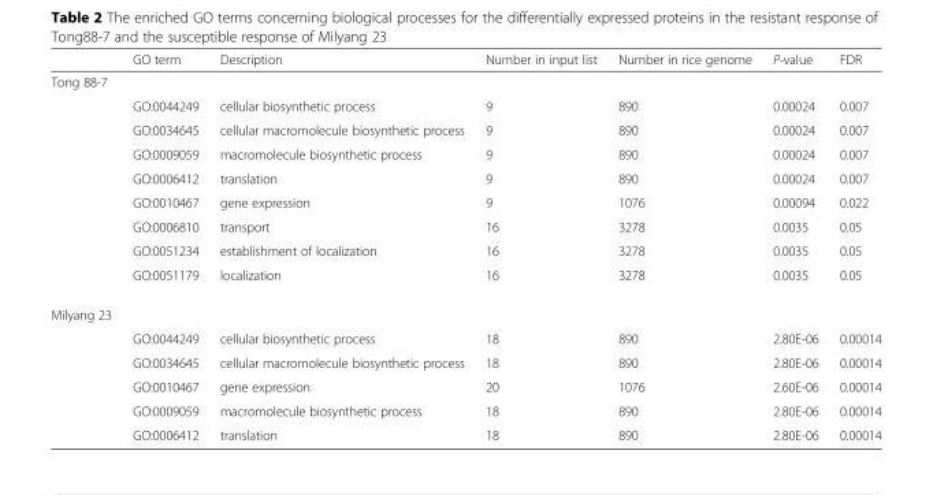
<table><thead><tr><td></td><td>GO term</td><td>Description</td><td>Number in input list</td><td>Number in rice genome</td><td>P-value</td><td>FDR</td></tr></thead><tbody><tr><td colspan="7">Tong 88-7</td></tr><tr><td></td><td>GO:0044249</td><td>cellular biosynthetic process</td><td>9</td><td>890</td><td>0.00024</td><td>0.007</td></tr><tr><td></td><td>GO:0034645</td><td>cellular macromolecule biosynthetic process</td><td>9</td><td>890</td><td>0.00024</td><td>0.007</td></tr><tr><td></td><td>GO:0009059</td><td>macromolecule biosynthetic process</td><td>9</td><td>890</td><td>0.00024</td><td>0.007</td></tr><tr><td></td><td>GO:0006412</td><td>translation</td><td>9</td><td>890</td><td>0.00024</td><td>0.007</td></tr><tr><td></td><td>GO:0010467</td><td>gene expression</td><td>9</td><td>1076</td><td>0.00094</td><td>0.022</td></tr><tr><td></td><td>GO:0006810</td><td>transport</td><td>16</td><td>3278</td><td>0.0035</td><td>0.05</td></tr><tr><td></td><td>GO:0051234</td><td>establishment of localization</td><td>16</td><td>3278</td><td>0.0035</td><td>0.05</td></tr><tr><td></td><td>GO:0051179</td><td>localization</td><td>16</td><td>3278</td><td>0.0035</td><td>0.05</td></tr><tr><td colspan="7">Milyang 23</td></tr><tr><td></td><td>GO:0044249</td><td>cellular biosynthetic process</td><td>18</td><td>890</td><td>2.80E-06</td><td>0.00014</td></tr><tr><td></td><td>GO:0034645</td><td>cellular macromolecule biosynthetic process</td><td>18</td><td>890</td><td>2.80E-06</td><td>0.00014</td></tr><tr><td></td><td>GO:0010467</td><td>gene expression</td><td>20</td><td>1076</td><td>2.60E-06</td><td>0.00014</td></tr><tr><td></td><td>GO:0009059</td><td>macromolecule biosynthetic process</td><td>18</td><td>890</td><td>2.80E-06</td><td>0.00014</td></tr><tr><td></td><td>GO:0006412</td><td>translation</td><td>18</td><td>890</td><td>2.80E-06</td><td>0.00014</td></tr></tbody></table>